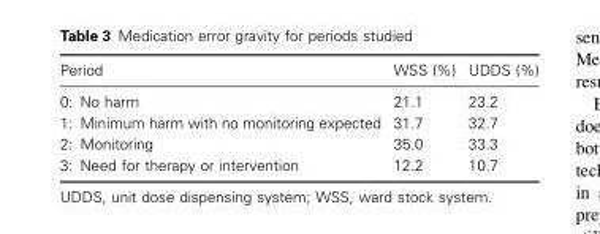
<table><thead><tr><td>Period</td><td>WSS (%)</td><td>UDDS (%)</td></tr></thead><tbody><tr><td>0: No harm</td><td>21.1</td><td>23.2</td></tr><tr><td>1: Minimum harm with no monitoring expected</td><td>31.7</td><td>32.7</td></tr><tr><td>2: Monitoring</td><td>35.0</td><td>33.3</td></tr><tr><td>3: Need for therapy or intervention</td><td>12.2</td><td>10.7</td></tr></tbody></table>